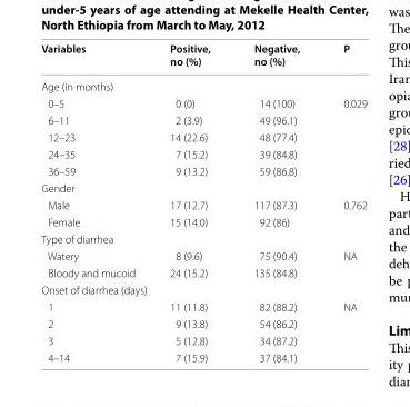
<table><thead><tr><td>Variables</td><td>Positive, no (%)</td><td>Negative, no (%)</td><td>P</td></tr></thead><tbody><tr><td colspan="4">Age (in months)</td></tr><tr><td>0–5</td><td>0 (0)</td><td>14 (100)</td><td>0.029</td></tr><tr><td>6–11</td><td>2 (3.9)</td><td>49 (96.1)</td><td></td></tr><tr><td>12–23</td><td>14 (22.6)</td><td>48 (77.4)</td><td></td></tr><tr><td>24–35</td><td>7 (15.2)</td><td>39 (84.8)</td><td></td></tr><tr><td>36–59</td><td>9 (13.2)</td><td>59 (86.8)</td><td></td></tr><tr><td colspan="4">Gender</td></tr><tr><td>Male</td><td>17 (12.7)</td><td>117 (87.3)</td><td>0.762</td></tr><tr><td>Female</td><td>15 (14.0)</td><td>92 (86)</td><td></td></tr><tr><td colspan="4">Type of diarrhea</td></tr><tr><td>Watery</td><td>8 (9.6)</td><td>75 (90.4)</td><td>NA</td></tr><tr><td>Bloody and mucoid</td><td>24 (15.2)</td><td>135 (84.8)</td><td></td></tr><tr><td colspan="4">Onset of diarrhea (days)</td></tr><tr><td>1</td><td>11 (11.8)</td><td>82 (88.2)</td><td>NA</td></tr><tr><td>2</td><td>9 (13.8)</td><td>54 (86.2)</td><td></td></tr><tr><td>3</td><td>5 (12.8)</td><td>34 (87.2)</td><td></td></tr><tr><td>4–14</td><td>7 (15.9)</td><td>37 (84.1)</td><td></td></tr></tbody></table>